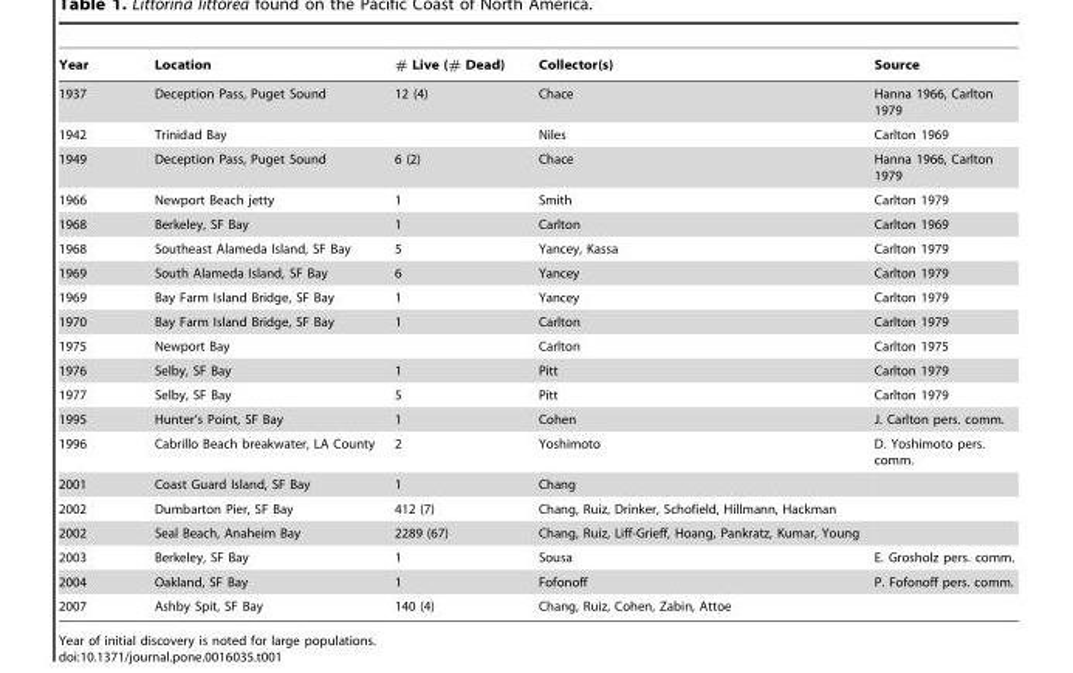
<table><thead><tr><td>Year</td><td>Location</td><td># Live (# Dead)</td><td>Collector(s)</td><td>Source</td></tr></thead><tbody><tr><td>1937</td><td>Deception Pass, Puget Sound</td><td>12 (4)</td><td>Chace</td><td>Hanna 1966, Carlton 1979</td></tr><tr><td>1942</td><td>Trinidad Bay</td><td></td><td>Niles</td><td>Carlton 1969</td></tr><tr><td>1949</td><td>Deception Pass, Puget Sound</td><td>6 (2)</td><td>Chace</td><td>Hanna 1966, Carlton 1979</td></tr><tr><td>1966</td><td>Newport Beach jetty</td><td>1</td><td>Smith</td><td>Carlton 1979</td></tr><tr><td>1968</td><td>Berkeley, SF Bay</td><td>1</td><td>Carlton</td><td>Carlton 1969</td></tr><tr><td>1968</td><td>Southeast Alameda Island, SF Bay</td><td>5</td><td>Yancey, Kassa</td><td>Carlton 1979</td></tr><tr><td>1969</td><td>South Alameda Island, SF Bay</td><td>6</td><td>Yancey</td><td>Carlton 1979</td></tr><tr><td>1969</td><td>Bay Farm Island Bridge, SF Bay</td><td>1</td><td>Yancey</td><td>Carlton 1979</td></tr><tr><td>1970</td><td>Bay Farm Island Bridge, SF Bay</td><td>1</td><td>Carlton</td><td>Carlton 1979</td></tr><tr><td>1975</td><td>Newport Bay</td><td></td><td>Carlton</td><td>Carlton 1975</td></tr><tr><td>1976</td><td>Selby, SF Bay</td><td>1</td><td>Pitt</td><td>Carlton 1979</td></tr><tr><td>1977</td><td>Selby, SF Bay</td><td>5</td><td>Pitt</td><td>Carlton 1979</td></tr><tr><td>1995</td><td>Hunter’s Point, SF Bay</td><td>1</td><td>Cohen</td><td>J. Carlton pers. comm.</td></tr><tr><td>1996</td><td>Cabrillo Beach breakwater, LA County</td><td>2</td><td>Yoshimoto</td><td>D. Yoshimoto pers. comm.</td></tr><tr><td>2001</td><td>Coast Guard Island, SF Bay</td><td>1</td><td>Chang</td><td></td></tr><tr><td>2002</td><td>Dumbarton Pier, SF Bay</td><td>412 (7)</td><td>Chang, Ruiz, Drinker, Schofield, Hillmann, Hackman</td><td></td></tr><tr><td>2002</td><td>Seal Beach, Anaheim Bay</td><td>2289 (67)</td><td>Chang, Ruiz, Liff-Grieff, Hoang, Pankratz, Kumar, Young</td><td></td></tr><tr><td>2003</td><td>Berkeley, SF Bay</td><td>1</td><td>Sousa</td><td>E. Grosholz pers. comm.</td></tr><tr><td>2004</td><td>Oakland, SF Bay</td><td>1</td><td>Fofonoff</td><td>P. Fofonoff pers. comm.</td></tr><tr><td>2007</td><td>Ashby Spit, SF Bay</td><td>140 (4)</td><td>Chang, Ruiz, Cohen, Zabin, Attoe</td><td></td></tr></tbody></table>